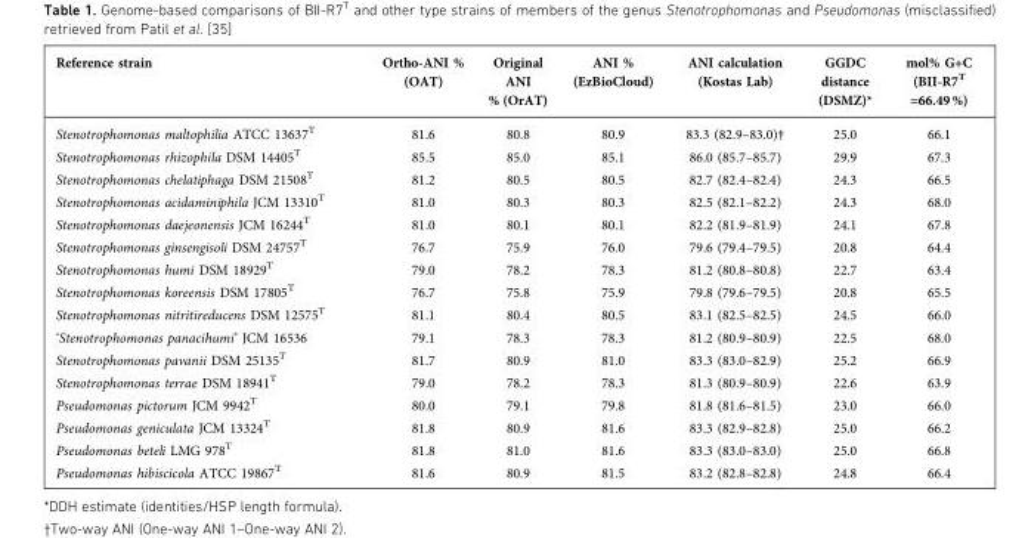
<table><thead><tr><td>Reference strain</td><td>Ortho-ANI % (OAT)</td><td>Original ANI % (OrAT)</td><td>ANI % (EzBioCloud)</td><td>ANI calculation (Kostas Lab)</td><td>GGDC distance (DSMZ)*</td><td>mol% G+C (BII-R7<sup>T</sup> =66.49 %)</td></tr></thead><tbody><tr><td>Stenotrophomonas maltophilia ATCC 13637<sup>T</sup></td><td>81.6</td><td>80.8</td><td>80.9</td><td>83.3 (82.9–83.0)†</td><td>25.0</td><td>66.1</td></tr><tr><td>Stenotrophomonas rhizophila DSM 14405<sup>T</sup></td><td>85.5</td><td>85.0</td><td>85.1</td><td>86.0 (85.7–85.7)</td><td>29.9</td><td>67.3</td></tr><tr><td>Stenotrophomonas chelatiphaga DSM 21508<sup>T</sup></td><td>81.2</td><td>80.5</td><td>80.5</td><td>82.7 (82.4–82.4)</td><td>24.3</td><td>66.5</td></tr><tr><td>Stenotrophomonas acidaminiphila JCM 13310<sup>T</sup></td><td>81.0</td><td>80.3</td><td>80.3</td><td>82.5 (82.1–82.2)</td><td>24.3</td><td>68.0</td></tr><tr><td>Stenotrophomonas daejeonensis JCM 16244<sup>T</sup></td><td>81.0</td><td>80.1</td><td>80.1</td><td>82.2 (81.9–81.9)</td><td>24.1</td><td>67.8</td></tr><tr><td>Stenotrophomonas ginsengisoli DSM 24757<sup>T</sup></td><td>76.7</td><td>75.9</td><td>76.0</td><td>79.6 (79.4–79.5)</td><td>20.8</td><td>64.4</td></tr><tr><td>Stenotrophomonas humi DSM 18929<sup>T</sup></td><td>79.0</td><td>78.2</td><td>78.3</td><td>81.2 (80.8–80.8)</td><td>22.7</td><td>63.4</td></tr><tr><td>Stenotrophomonas koreensis DSM 17805<sup>T</sup></td><td>76.7</td><td>75.8</td><td>75.9</td><td>79.8 (79.6–79.5)</td><td>20.8</td><td>65.5</td></tr><tr><td>Stenotrophomonas nitritireducens DSM 12575<sup>T</sup></td><td>81.1</td><td>80.4</td><td>80.5</td><td>83.1 (82.5–82.5)</td><td>24.5</td><td>66.0</td></tr><tr><td>‘Stenotrophomonas panacihumi’ JCM 16536</td><td>79.1</td><td>78.3</td><td>78.3</td><td>81.2 (80.9–80.9)</td><td>22.5</td><td>68.0</td></tr><tr><td>Stenotrophomonas pavanii DSM 25135<sup>T</sup></td><td>81.7</td><td>80.9</td><td>81.0</td><td>83.3 (83.0–82.9)</td><td>25.2</td><td>66.9</td></tr><tr><td>Stenotrophomonas terrae DSM 18941<sup>T</sup></td><td>79.0</td><td>78.2</td><td>78.3</td><td>81.3 (80.9–80.9)</td><td>22.6</td><td>63.9</td></tr><tr><td>Pseudomonas pictorum JCM 9942<sup>T</sup></td><td>80.0</td><td>79.1</td><td>79.8</td><td>81.8 (81.6–81.5)</td><td>23.0</td><td>66.0</td></tr><tr><td>Pseudomonas geniculata JCM 13324<sup>T</sup></td><td>81.8</td><td>80.9</td><td>81.6</td><td>83.3 (82.9–82.8)</td><td>25.0</td><td>66.2</td></tr><tr><td>Pseudomonas beteli LMG 978<sup>T</sup></td><td>81.8</td><td>81.0</td><td>81.6</td><td>83.3 (83.0–83.0)</td><td>25.0</td><td>66.8</td></tr><tr><td>Pseudomonas hibiscicola ATCC 19867<sup>T</sup></td><td>81.6</td><td>80.9</td><td>81.5</td><td>83.2 (82.8–82.8)</td><td>24.8</td><td>66.4</td></tr></tbody></table>